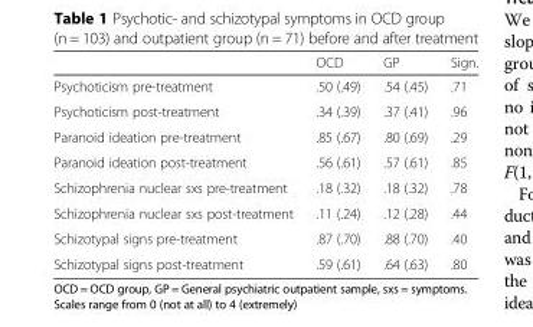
<table><thead><tr><td></td><td>OCD</td><td>GP</td><td>Sign.</td></tr></thead><tbody><tr><td>Psychoticism pre-treatment</td><td>.50 (.49)</td><td>.54 (.45)</td><td>.71</td></tr><tr><td>Psychoticism post-treatment</td><td>.34 (.39)</td><td>.37 (.41)</td><td>.96</td></tr><tr><td>Paranoid ideation pre-treatment</td><td>.85 (.67)</td><td>.80 (.69)</td><td>.29</td></tr><tr><td>Paranoid ideation post-treatment</td><td>.56 (.61)</td><td>.57 (.61)</td><td>.85</td></tr><tr><td>Schizophrenia nuclear sxs pre-treatment</td><td>.18 (.32)</td><td>.18 (.32)</td><td>.78</td></tr><tr><td>Schizophrenia nuclear sxs post-treatment</td><td>.11 (.24)</td><td>.12 (.28)</td><td>.44</td></tr><tr><td>Schizotypal signs pre-treatment</td><td>.87 (.70)</td><td>.88 (.70)</td><td>.40</td></tr><tr><td>Schizotypal signs post-treatment</td><td>.59 (.61)</td><td>.64 (.63)</td><td>.80</td></tr></tbody></table>